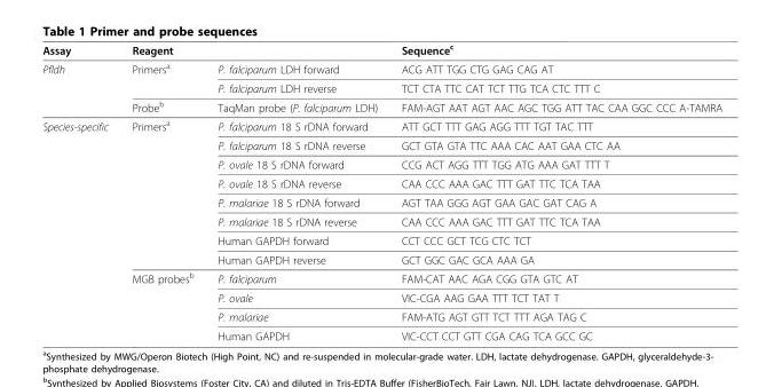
<table><thead><tr><td rowspan="2">Assay Pfldh</td><td colspan="2">Reagent</td><td rowspan="2">Sequencec ACG ATT TGG CTG GAG CAG AT</td></tr><tr><td>Primersa</td><td>P. falciparum LDH forward</td></tr></thead><tbody><tr><td></td><td></td><td>P. falciparum LDH reverse</td><td>TCT CTA TTC CAT TCT TTG TCA CTC TTT C</td></tr><tr><td></td><td>Probeb</td><td>TaqMan probe (P. falciparum LDH)</td><td>FAM-AGT AAT AGT AAC AGC TGG ATT TAC CAA GGC CCC A-TAMRA</td></tr><tr><td rowspan="12">Species-specific</td><td>Primersa</td><td>P. falciparum 18 S rDNA forward</td><td>ATT GCT TTT GAG AGG TTT TGT TAC TTT</td></tr><tr><td></td><td>P. falciparum 18 S rDNA reverse</td><td>GCT GTA GTA TTC AAA CAC AAT GAA CTC AA</td></tr><tr><td></td><td>P. ovale 18 S rDNA forward</td><td>CCG ACT AGG TTT TGG ATG AAA GAT TTT T</td></tr><tr><td></td><td>P. ovale 18 S rDNA reverse</td><td>CAA CCC AAA GAC TTT GAT TTC TCA TAA</td></tr><tr><td></td><td>P. malariae 18 S rDNA forward</td><td>AGT TAA GGG AGT GAA GAC GAT CAG A</td></tr><tr><td></td><td>P. malariae 18 S rDNA reverse</td><td>CAA CCC AAA GAC TTT GAT TTC TCA TAA</td></tr><tr><td></td><td>Human GAPDH forward</td><td>CCT CCC GCT TCG CTC TCT</td></tr><tr><td></td><td>Human GAPDH reverse</td><td>GCT GGC GAC GCA AAA GA</td></tr><tr><td>MGB probes<sup>b</sup></td><td>P. falciparum</td><td>FAM-CAT AAC AGA CGG GTA GTC AT</td></tr><tr><td></td><td>P. ovale</td><td>VIC-CGA AAG GAA TTT TCT TAT T</td></tr><tr><td></td><td>P. malariae</td><td>FAM-ATG AGT GTT TCT TTT AGA TAG C</td></tr><tr><td></td><td>Human GAPDH</td><td>VIC-CCT CCT GTT CGA CAG TCA GCC GC</td></tr></tbody></table>